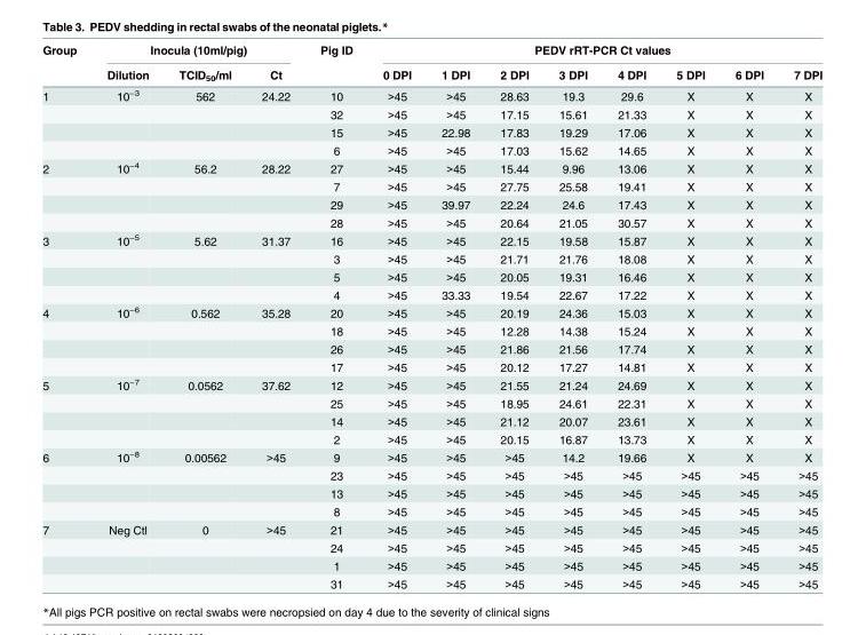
<table><thead><tr><td rowspan="2">Group</td><td colspan="3">Inocula (10ml/pig)</td><td rowspan="2">Pig ID</td><td colspan="8">PEDV rRT-PCR Ct values</td></tr><tr><td>Dilution</td><td>TCID<sub>50</sub>/ml</td><td>Ct</td><td>0 DPI</td><td>1 DPI</td><td>2 DPI</td><td>3 DPI</td><td>4 DPI</td><td>5 DPI</td><td>6 DPI</td><td>7 DPI</td></tr></thead><tbody><tr><td rowspan="4">1</td><td>10<sup>−3</sup></td><td>562</td><td>24.22</td><td>10</td><td>&gt;45</td><td>&gt;45</td><td>28.63</td><td>19.3</td><td>29.6</td><td>X</td><td>X</td><td>X</td></tr><tr><td></td><td></td><td></td><td>32</td><td>&gt;45</td><td>&gt;45</td><td>17.15</td><td>15.61</td><td>21.33</td><td>X</td><td>X</td><td>X</td></tr><tr><td></td><td></td><td></td><td>15</td><td>&gt;45</td><td>22.98</td><td>17.83</td><td>19.29</td><td>17.06</td><td>X</td><td>X</td><td>X</td></tr><tr><td></td><td></td><td></td><td>6</td><td>&gt;45</td><td>&gt;45</td><td>17.03</td><td>15.62</td><td>14.65</td><td>X</td><td>X</td><td>X</td></tr><tr><td rowspan="4">2</td><td>10<sup>−4</sup></td><td>56.2</td><td>28.22</td><td>27</td><td>&gt;45</td><td>&gt;45</td><td>15.44</td><td>9.96</td><td>13.06</td><td>X</td><td>X</td><td>X</td></tr><tr><td></td><td></td><td></td><td>7</td><td>&gt;45</td><td>&gt;45</td><td>27.75</td><td>25.58</td><td>19.41</td><td>X</td><td>X</td><td>X</td></tr><tr><td></td><td></td><td></td><td>29</td><td>&gt;45</td><td>39.97</td><td>22.24</td><td>24.6</td><td>17.43</td><td>X</td><td>X</td><td>X</td></tr><tr><td></td><td></td><td></td><td>28</td><td>&gt;45</td><td>&gt;45</td><td>20.64</td><td>21.05</td><td>30.57</td><td>X</td><td>X</td><td>X</td></tr><tr><td rowspan="4">3</td><td>10<sup>−5</sup></td><td>5.62</td><td>31.37</td><td>16</td><td>&gt;45</td><td>&gt;45</td><td>22.15</td><td>19.58</td><td>15.87</td><td>X</td><td>X</td><td>X</td></tr><tr><td></td><td></td><td></td><td>3</td><td>&gt;45</td><td>&gt;45</td><td>21.71</td><td>21.76</td><td>18.08</td><td>X</td><td>X</td><td>X</td></tr><tr><td></td><td></td><td></td><td>5</td><td>&gt;45</td><td>&gt;45</td><td>20.05</td><td>19.31</td><td>16.46</td><td>X</td><td>X</td><td>X</td></tr><tr><td></td><td></td><td></td><td>4</td><td>&gt;45</td><td>33.33</td><td>19.54</td><td>22.67</td><td>17.22</td><td>X</td><td>X</td><td>X</td></tr><tr><td rowspan="4">4</td><td>10<sup>−6</sup></td><td>0.562</td><td>35.28</td><td>20</td><td>&gt;45</td><td>&gt;45</td><td>20.19</td><td>24.36</td><td>15.03</td><td>X</td><td>X</td><td>X</td></tr><tr><td></td><td></td><td></td><td>18</td><td>&gt;45</td><td>&gt;45</td><td>12.28</td><td>14.38</td><td>15.24</td><td>X</td><td>X</td><td>X</td></tr><tr><td></td><td></td><td></td><td>26</td><td>&gt;45</td><td>&gt;45</td><td>21.86</td><td>21.56</td><td>17.74</td><td>X</td><td>X</td><td>X</td></tr><tr><td></td><td></td><td></td><td>17</td><td>&gt;45</td><td>&gt;45</td><td>20.12</td><td>17.27</td><td>14.81</td><td>X</td><td>X</td><td>X</td></tr><tr><td rowspan="4">5</td><td>10<sup>−7</sup></td><td>0.0562</td><td>37.62</td><td>12</td><td>&gt;45</td><td>&gt;45</td><td>21.55</td><td>21.24</td><td>24.69</td><td>X</td><td>X</td><td>X</td></tr><tr><td></td><td></td><td></td><td>25</td><td>&gt;45</td><td>&gt;45</td><td>18.95</td><td>24.61</td><td>22.31</td><td>X</td><td>X</td><td>X</td></tr><tr><td></td><td></td><td></td><td>14</td><td>&gt;45</td><td>&gt;45</td><td>21.12</td><td>20.07</td><td>23.61</td><td>X</td><td>X</td><td>X</td></tr><tr><td></td><td></td><td></td><td>2</td><td>&gt;45</td><td>&gt;45</td><td>20.15</td><td>16.87</td><td>13.73</td><td>X</td><td>X</td><td>X</td></tr><tr><td rowspan="4">6</td><td>10<sup>−8</sup></td><td>0.00562</td><td>&gt;45</td><td>9</td><td>&gt;45</td><td>&gt;45</td><td>&gt;45</td><td>14.2</td><td>19.66</td><td>X</td><td>X</td><td>X</td></tr><tr><td></td><td></td><td></td><td>23</td><td>&gt;45</td><td>&gt;45</td><td>&gt;45</td><td>&gt;45</td><td>&gt;45</td><td>&gt;45</td><td>&gt;45</td><td>&gt;45</td></tr><tr><td></td><td></td><td></td><td>13</td><td>&gt;45</td><td>&gt;45</td><td>&gt;45</td><td>&gt;45</td><td>&gt;45</td><td>&gt;45</td><td>&gt;45</td><td>&gt;45</td></tr><tr><td></td><td></td><td></td><td>8</td><td>&gt;45</td><td>&gt;45</td><td>&gt;45</td><td>&gt;45</td><td>&gt;45</td><td>&gt;45</td><td>&gt;45</td><td>&gt;45</td></tr><tr><td rowspan="4">7</td><td>Neg Ctl</td><td>0</td><td>&gt;45</td><td>21</td><td>&gt;45</td><td>&gt;45</td><td>&gt;45</td><td>&gt;45</td><td>&gt;45</td><td>&gt;45</td><td>&gt;45</td><td>&gt;45</td></tr><tr><td></td><td></td><td></td><td>24</td><td>&gt;45</td><td>&gt;45</td><td>&gt;45</td><td>&gt;45</td><td>&gt;45</td><td>&gt;45</td><td>&gt;45</td><td>&gt;45</td></tr><tr><td></td><td></td><td></td><td>1</td><td>&gt;45</td><td>&gt;45</td><td>&gt;45</td><td>&gt;45</td><td>&gt;45</td><td>&gt;45</td><td>&gt;45</td><td>&gt;45</td></tr><tr><td></td><td></td><td></td><td>31</td><td>&gt;45</td><td>&gt;45</td><td>&gt;45</td><td>&gt;45</td><td>&gt;45</td><td>&gt;45</td><td>&gt;45</td><td>&gt;45</td></tr></tbody></table>